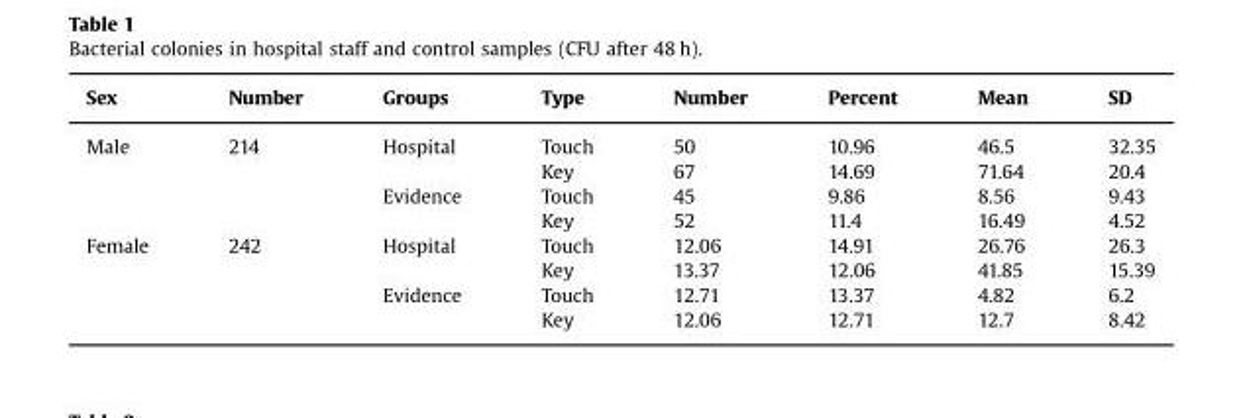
<table><thead><tr><td>Sex</td><td>Number</td><td>Groups</td><td>Type</td><td>Number</td><td>Percent</td><td>Mean</td><td>SD</td></tr></thead><tbody><tr><td rowspan="4">Male</td><td rowspan="4">214</td><td rowspan="2">Hospital</td><td>Touch</td><td>50</td><td>10.96</td><td>46.5</td><td>32.35</td></tr><tr><td>Key</td><td>67</td><td>14.69</td><td>71.64</td><td>20.4</td></tr><tr><td rowspan="2">Evidence</td><td>Touch</td><td>45</td><td>9.86</td><td>8.56</td><td>9.43</td></tr><tr><td>Key</td><td>52</td><td>11.4</td><td>16.49</td><td>4.52</td></tr><tr><td rowspan="4">Female</td><td rowspan="4">242</td><td rowspan="2">Hospital</td><td>Touch</td><td>12.06</td><td>14.91</td><td>26.76</td><td>26.3</td></tr><tr><td>Key</td><td>13.37</td><td>12.06</td><td>41.85</td><td>15.39</td></tr><tr><td rowspan="2">Evidence</td><td>Touch</td><td>12.71</td><td>13.37</td><td>4.82</td><td>6.2</td></tr><tr><td>Key</td><td>12.06</td><td>12.71</td><td>12.7</td><td>8.42</td></tr></tbody></table>